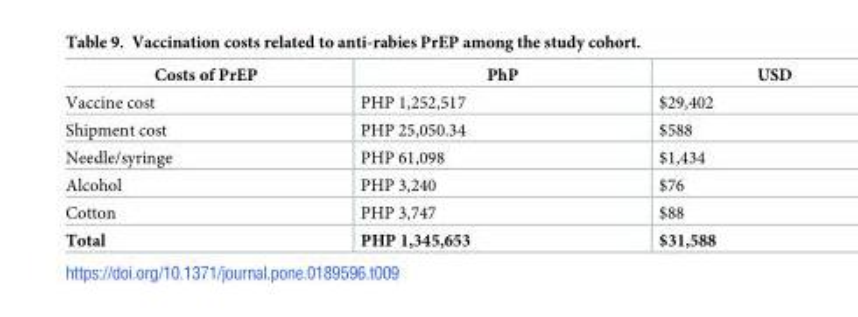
<table><thead><tr><td>Costs of PrEP</td><td>PhP</td><td>USD</td></tr></thead><tbody><tr><td>Vaccine cost</td><td>PHP 1,252,517</td><td>$29,402</td></tr><tr><td>Shipment cost</td><td>PHP 25,050.34</td><td>$588</td></tr><tr><td>Needle/syringe</td><td>PHP 61,098</td><td>$1,434</td></tr><tr><td>Alcohol</td><td>PHP 3,240</td><td>$76</td></tr><tr><td>Cotton</td><td>PHP 3,747</td><td>$88</td></tr><tr><td>Total</td><td>PHP 1,345,653</td><td>$31,588</td></tr></tbody></table>